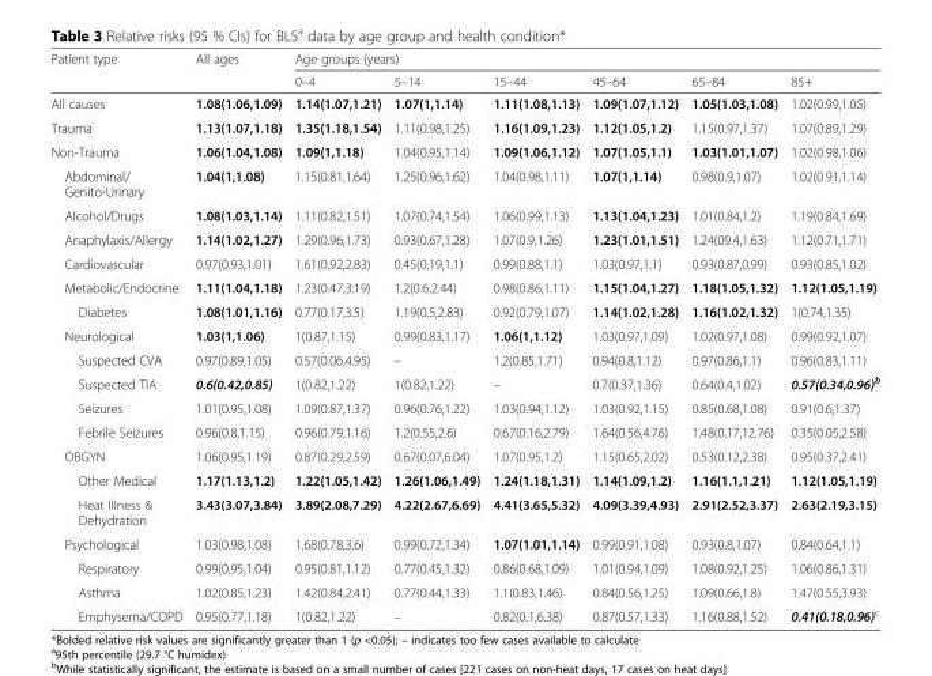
<table><thead><tr><td rowspan="2">Patient type</td><td rowspan="2">All ages</td><td colspan="6">Age groups (years)</td></tr><tr><td>0–4</td><td>5–14</td><td>15–44</td><td>45–64</td><td>65–84</td><td>85+</td></tr></thead><tbody><tr><td>All causes</td><td>1.08(1.06,1.09)</td><td>1.14(1.07,1.21)</td><td>1.07(1,1.14)</td><td>1.11(1.08,1.13)</td><td>1.09(1.07,1.12)</td><td>1.05(1.03,1.08)</td><td>1.02(0.99,1.05)</td></tr><tr><td>Trauma</td><td>1.13(1.07,1.18)</td><td>1.35(1.18,1.54)</td><td>1.11(0.98,1.25)</td><td>1.16(1.09,1.23)</td><td>1.12(1.05,1.2)</td><td>1.15(0.97,1.37)</td><td>1.07(0.89,1.29)</td></tr><tr><td>Non-Trauma</td><td>1.06(1.04,1.08)</td><td>1.09(1,1.18)</td><td>1.04(0.95,1.14)</td><td>1.09(1.06,1.12)</td><td>1.07(1.05,1.1)</td><td>1.03(1.01,1.07)</td><td>1.02(0.98,1.06)</td></tr><tr><td>Abdominal/ Genito-Urinary</td><td>1.04(1,1.08)</td><td>1.15(0.81,1.64)</td><td>1.25(0.96,1.62)</td><td>1.04(0.98,1.11)</td><td>1.07(1,1.14)</td><td>0.98(0.9,1.07)</td><td>1.02(0.91,1.14)</td></tr><tr><td>Alcohol/Drugs</td><td>1.08(1.03,1.14)</td><td>1.11(0.82,1.51)</td><td>1.07(0.74,1.54)</td><td>1.06(0.99,1.13)</td><td>1.13(1.04,1.23)</td><td>1.01(0.84,1.2)</td><td>1.19(0.84,1.69)</td></tr><tr><td>Anaphylaxis/Allergy</td><td>1.14(1.02,1.27)</td><td>1.29(0.96,1.73)</td><td>0.93(0.67,1.28)</td><td>1.07(0.9,1.26)</td><td>1.23(1.01,1.51)</td><td>1.24(09.4,1.63)</td><td>1.12(0.71,1.71)</td></tr><tr><td>Cardiovascular</td><td>0.97(0.93,1.01)</td><td>1.61(0.92,2.83)</td><td>0.45(0.19,1.1)</td><td>0.99(0.88,1.1)</td><td>1.03(0.97,1.1)</td><td>0.93(0.87,0.99)</td><td>0.93(0.85,1.02)</td></tr><tr><td>Metabolic/Endocrine</td><td>1.11(1.04,1.18)</td><td>1.23(0.47,3.19)</td><td>1.2(0.6,2.44)</td><td>0.98(0.86,1.11)</td><td>1.15(1.04,1.27)</td><td>1.18(1.05,1.32)</td><td>1.12(1.05,1.19)</td></tr><tr><td>Diabetes</td><td>1.08(1.01,1.16)</td><td>0.77(0.17,3.5)</td><td>1.19(0.5,2.83)</td><td>0.92(0.79,1.07)</td><td>1.14(1.02,1.28)</td><td>1.16(1.02,1.32)</td><td>1(0.74,1.35)</td></tr><tr><td>Neurological</td><td>1.03(1,1.06)</td><td>1(0.87,1.15)</td><td>0.99(0.83,1.17)</td><td>1.06(1,1.12)</td><td>1.03(0.97,1.09)</td><td>1.02(0.97,1.08)</td><td>0.99(0.92,1.07)</td></tr><tr><td>Suspected CVA</td><td>0.97(0.89,1.05)</td><td>0.57(0.06,4.95)</td><td>–</td><td>1.2(0.85,1.71)</td><td>0.94(0.8,1.12)</td><td>0.97(0.86,1.1)</td><td>0.96(0.83,1.11)</td></tr><tr><td>Suspected TIA</td><td>0.6(0.42,0.85)</td><td>1(0.82,1.22)</td><td>1(0.82,1.22)</td><td>–</td><td>0.7(0.37,1.36)</td><td>0.64(0.4,1.02)</td><td>0.57(0.34,0.96)<sup>b</sup></td></tr><tr><td>Seizures</td><td>1.01(0.95,1.08)</td><td>1.09(0.87,1.37)</td><td>0.96(0.76,1.22)</td><td>1.03(0.94,1.12)</td><td>1.03(0.92,1.15)</td><td>0.85(0.68,1.08)</td><td>0.91(0.6,1.37)</td></tr><tr><td>Febrile Seizures</td><td>0.96(0.8,1.15)</td><td>0.96(0.79,1.16)</td><td>1.2(0.55,2.6)</td><td>0.67(0.16,2.79)</td><td>1.64(0.56,4.76)</td><td>1.48(0.17,12.76)</td><td>0.35(0.05,2.58)</td></tr><tr><td>OBGYN</td><td>1.06(0.95,1.19)</td><td>0.87(0.29,2.59)</td><td>0.67(0.07,6.04)</td><td>1.07(0.95,1.2)</td><td>1.15(0.65,2.02)</td><td>0.53(0.12,2.38)</td><td>0.95(0.37,2.41)</td></tr><tr><td>Other Medical</td><td>1.17(1.13,1.2)</td><td>1.22(1.05,1.42)</td><td>1.26(1.06,1.49)</td><td>1.24(1.18,1.31)</td><td>1.14(1.09,1.2)</td><td>1.16(1.1,1.21)</td><td>1.12(1.05,1.19)</td></tr><tr><td>Heat Illness &amp; Dehydration</td><td>3.43(3.07,3.84)</td><td>3.89(2.08,7.29)</td><td>4.22(2.67,6.69)</td><td>4.41(3.65,5.32)</td><td>4.09(3.39,4.93)</td><td>2.91(2.52,3.37)</td><td>2.63(2.19,3.15)</td></tr><tr><td>Psychological</td><td>1.03(0.98,1.08)</td><td>1.68(0.78,3.6)</td><td>0.99(0.72,1.34)</td><td>1.07(1.01,1.14)</td><td>0.99(0.91,1.08)</td><td>0.93(0.8,1.07)</td><td>0.84(0.64,1.1)</td></tr><tr><td>Respiratory</td><td>0.99(0.95,1.04)</td><td>0.95(0.81,1.12)</td><td>0.77(0.45,1.32)</td><td>0.86(0.68,1.09)</td><td>1.01(0.94,1.09)</td><td>1.08(0.92,1.25)</td><td>1.06(0.86,1.31)</td></tr><tr><td>Asthma</td><td>1.02(0.85,1.23)</td><td>1.42(0.84,2.41)</td><td>0.77(0.44,1.33)</td><td>1.1(0.83,1.46)</td><td>0.84(0.56,1.25)</td><td>1.09(0.66,1.8)</td><td>1.47(0.55,3.93)</td></tr><tr><td>Emphysema/COPD</td><td>0.95(0.77,1.18)</td><td>1(0.82,1.22)</td><td>–</td><td>0.82(0.1,6.38)</td><td>0.87(0.57,1.33)</td><td>1.16(0.88,1.52)</td><td>0.41(0.18,0.96)<sup>c</sup></td></tr></tbody></table>